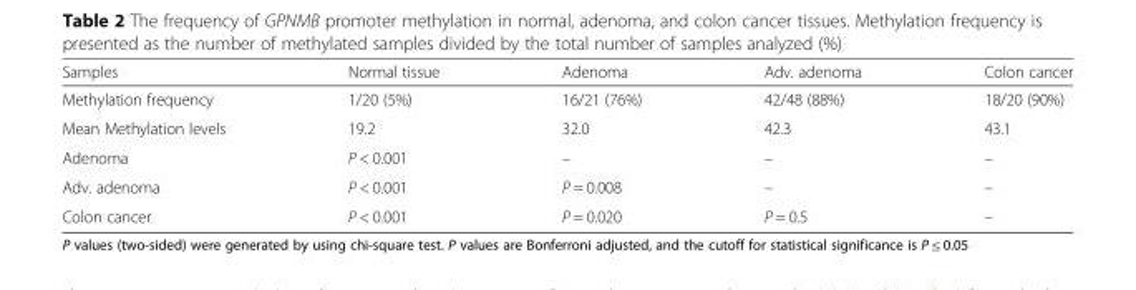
<table><thead><tr><td>Samples</td><td>Normal tissue</td><td>Adenoma</td><td>Adv. adenoma</td><td>Colon cancer</td></tr></thead><tbody><tr><td>Methylation frequency</td><td>1/20 (5%)</td><td>16/21 (76%)</td><td>42/48 (88%)</td><td>18/20 (90%)</td></tr><tr><td>Mean Methylation levels</td><td>19.2</td><td>32.0</td><td>42.3</td><td>43.1</td></tr><tr><td>Adenoma</td><td>P &lt; 0.001</td><td>–</td><td>–</td><td>–</td></tr><tr><td>Adv. adenoma</td><td>P &lt; 0.001</td><td>P = 0.008</td><td>–</td><td>–</td></tr><tr><td>Colon cancer</td><td>P &lt; 0.001</td><td>P = 0.020</td><td>P = 0.5</td><td>–</td></tr></tbody></table>